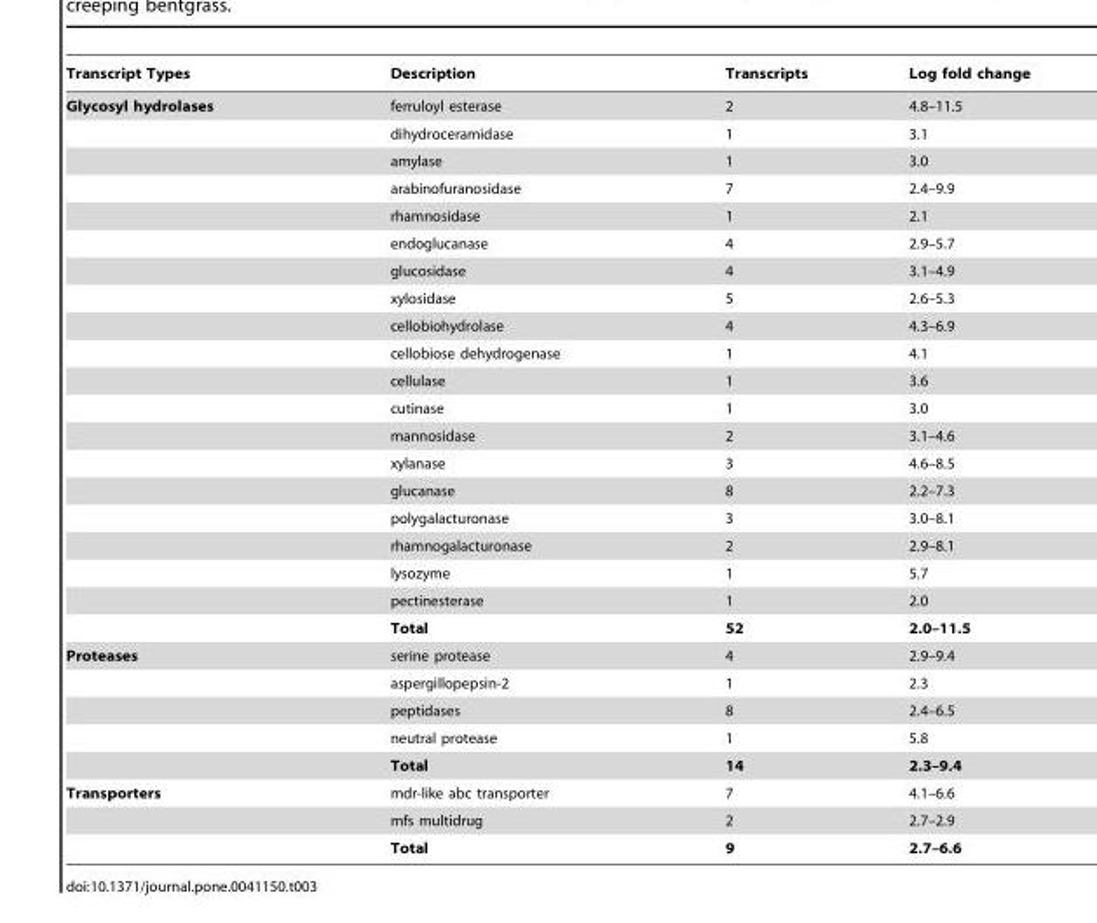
<table><thead><tr><td>Transcript Types</td><td>Description</td><td>Transcripts</td><td>Log fold change</td></tr></thead><tbody><tr><td rowspan="20">Glycosyl hydrolases</td><td>ferruloyl esterase</td><td>2</td><td>4.8–11.5</td></tr><tr><td>dihydroceramidase</td><td>1</td><td>3.1</td></tr><tr><td>amylase</td><td>1</td><td>3.0</td></tr><tr><td>arabinofuranosidase</td><td>7</td><td>2.4–9.9</td></tr><tr><td>rhamnosidase</td><td>1</td><td>2.1</td></tr><tr><td>endoglucanase</td><td>4</td><td>2.9–5.7</td></tr><tr><td>glucosidase</td><td>4</td><td>3.1–4.9</td></tr><tr><td>xylosidase</td><td>5</td><td>2.6–5.3</td></tr><tr><td>cellobiohydrolase</td><td>4</td><td>4.3–6.9</td></tr><tr><td>cellobiose dehydrogenase</td><td>1</td><td>4.1</td></tr><tr><td>cellulase</td><td>1</td><td>3.6</td></tr><tr><td>cutinase</td><td>1</td><td>3.0</td></tr><tr><td>mannosidase</td><td>2</td><td>3.1–4.6</td></tr><tr><td>xylanase</td><td>3</td><td>4.6–8.5</td></tr><tr><td>glucanase</td><td>8</td><td>2.2–7.3</td></tr><tr><td>polygalacturonase</td><td>3</td><td>3.0–8.1</td></tr><tr><td>rhamnogalacturonase</td><td>2</td><td>2.9–8.1</td></tr><tr><td>lysozyme</td><td>1</td><td>5.7</td></tr><tr><td>pectinesterase</td><td>1</td><td>2.0</td></tr><tr><td>Total</td><td>52</td><td>2.0–11.5</td></tr><tr><td rowspan="5">Proteases</td><td>serine protease</td><td>4</td><td>2.9–9.4</td></tr><tr><td>aspergillopepsin-2</td><td>1</td><td>2.3</td></tr><tr><td>peptidases</td><td>8</td><td>2.4–6.5</td></tr><tr><td>neutral protease</td><td>1</td><td>5.8</td></tr><tr><td>Total</td><td>14</td><td>2.3–9.4</td></tr><tr><td rowspan="3">Transporters</td><td>mdr-like abc transporter</td><td>7</td><td>4.1–6.6</td></tr><tr><td>mfs multidrug</td><td>2</td><td>2.7–2.9</td></tr><tr><td>Total</td><td>9</td><td>2.7–6.6</td></tr></tbody></table>